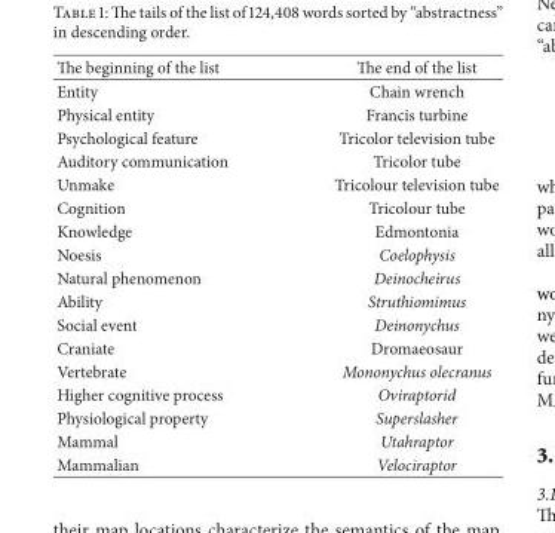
<table><thead><tr><td>The beginning of the list</td><td>The end of the list</td></tr></thead><tbody><tr><td>Entity</td><td>Chain wrench</td></tr><tr><td>Physical entity</td><td>Francis turbine</td></tr><tr><td>Psychological feature</td><td>Tricolor television tube</td></tr><tr><td>Auditory communication</td><td>Tricolor tube</td></tr><tr><td>Unmake</td><td>Tricolour television tube</td></tr><tr><td>Cognition</td><td>Tricolour tube</td></tr><tr><td>Knowledge</td><td>Edmontonia</td></tr><tr><td>Noesis</td><td>Coelophysis</td></tr><tr><td>Natural phenomenon</td><td>Deinocheirus</td></tr><tr><td>Ability</td><td>Struthiomimus</td></tr><tr><td>Social event</td><td>Deinonychus</td></tr><tr><td>Craniate</td><td>Dromaeosaur</td></tr><tr><td>Vertebrate</td><td>Mononychus olecranus</td></tr><tr><td>Higher cognitive process</td><td>Oviraptorid</td></tr><tr><td>Physiological property</td><td>Superslasher</td></tr><tr><td>Mammal</td><td>Utahraptor</td></tr><tr><td>Mammalian</td><td>Velociraptor</td></tr></tbody></table>